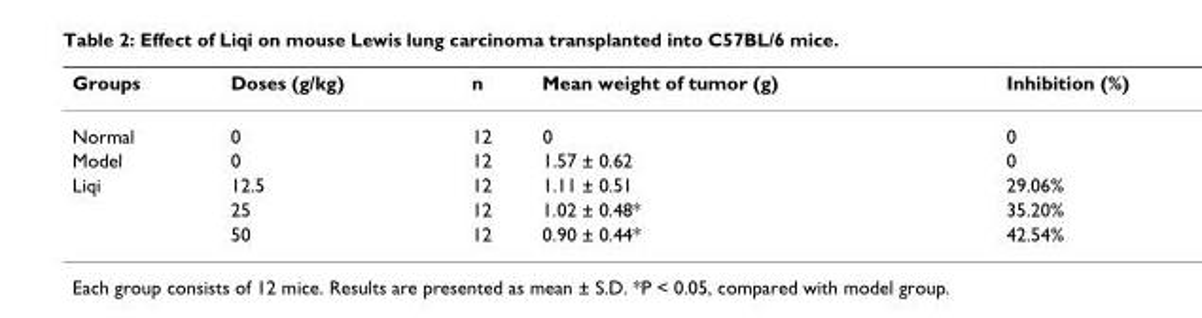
<table><thead><tr><td>Groups</td><td>Doses (g/kg)</td><td>n</td><td>Mean weight of tumor (g)</td><td>Inhibition (%)</td></tr></thead><tbody><tr><td>Normal</td><td>0</td><td>12</td><td>0</td><td>0</td></tr><tr><td>Model</td><td>0</td><td>12</td><td>1.57 ± 0.62</td><td>0</td></tr><tr><td rowspan="3">Liqi</td><td>12.5</td><td>12</td><td>1.11 ± 0.51</td><td>29.06%</td></tr><tr><td>25</td><td>12</td><td>1.02 ± 0.48*</td><td>35.20%</td></tr><tr><td>50</td><td>12</td><td>0.90 ± 0.44*</td><td>42.54%</td></tr></tbody></table>